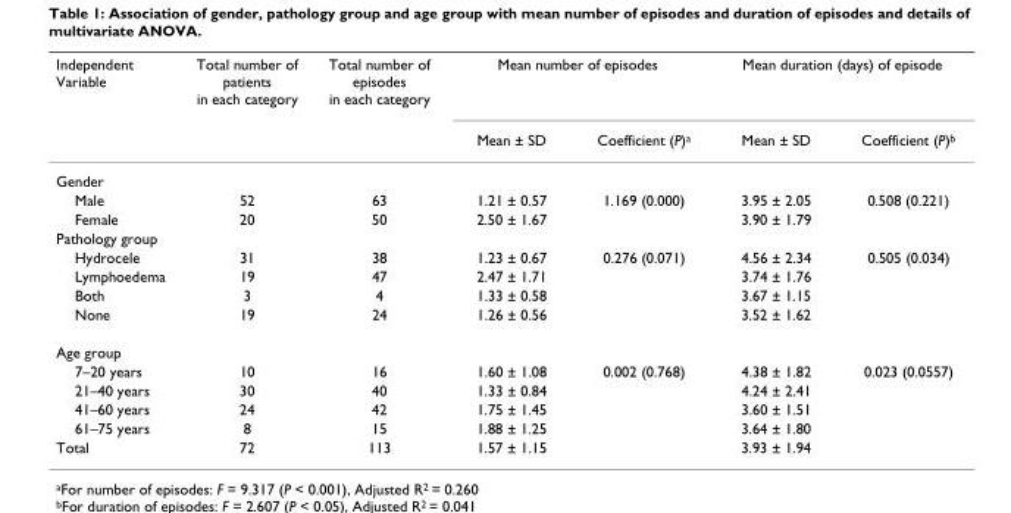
<table><thead><tr><td rowspan="2">Independent Variable</td><td rowspan="2">Total number of patients in each category</td><td rowspan="2">Total number of episodes in each category</td><td colspan="2">Mean number of episodes</td><td colspan="2">Mean duration (days) of episode</td></tr><tr><td>Mean ± SD</td><td>Coefficient (P)<sup>a</sup></td><td>Mean ± SD</td><td>Coefficient (P)<sup>b</sup></td></tr></thead><tbody><tr><td colspan="7">Gender</td></tr><tr><td>Male</td><td>52</td><td>63</td><td>1.21 ± 0.57</td><td>1.169 (0.000)</td><td>3.95 ± 2.05</td><td>0.508 (0.221)</td></tr><tr><td>Female</td><td>20</td><td>50</td><td>2.50 ± 1.67</td><td></td><td>3.90 ± 1.79</td><td></td></tr><tr><td colspan="7">Pathology group</td></tr><tr><td>Hydrocele</td><td>31</td><td>38</td><td>1.23 ± 0.67</td><td>0.276 (0.071)</td><td>4.56 ± 2.34</td><td>0.505 (0.034)</td></tr><tr><td>Lymphoedema</td><td>19</td><td>47</td><td>2.47 ± 1.71</td><td></td><td>3.74 ± 1.76</td><td></td></tr><tr><td>Both</td><td>3</td><td>4</td><td>1.33 ± 0.58</td><td></td><td>3.67 ± 1.15</td><td></td></tr><tr><td>None</td><td>19</td><td>24</td><td>1.26 ± 0.56</td><td></td><td>3.52 ± 1.62</td><td></td></tr><tr><td colspan="7">Age group</td></tr><tr><td>7–20 years</td><td>10</td><td>16</td><td>1.60 ± 1.08</td><td>0.002 (0.768)</td><td>4.38 ± 1.82</td><td>0.023 (0.0557)</td></tr><tr><td>21–40 years</td><td>30</td><td>40</td><td>1.33 ± 0.84</td><td></td><td>4.24 ± 2.41</td><td></td></tr><tr><td>41–60 years</td><td>24</td><td>42</td><td>1.75 ± 1.45</td><td></td><td>3.60 ± 1.51</td><td></td></tr><tr><td>61–75 years</td><td>8</td><td>15</td><td>1.88 ± 1.25</td><td></td><td>3.64 ± 1.80</td><td></td></tr><tr><td>Total</td><td>72</td><td>113</td><td>1.57 ± 1.15</td><td></td><td>3.93 ± 1.94</td><td></td></tr></tbody></table>